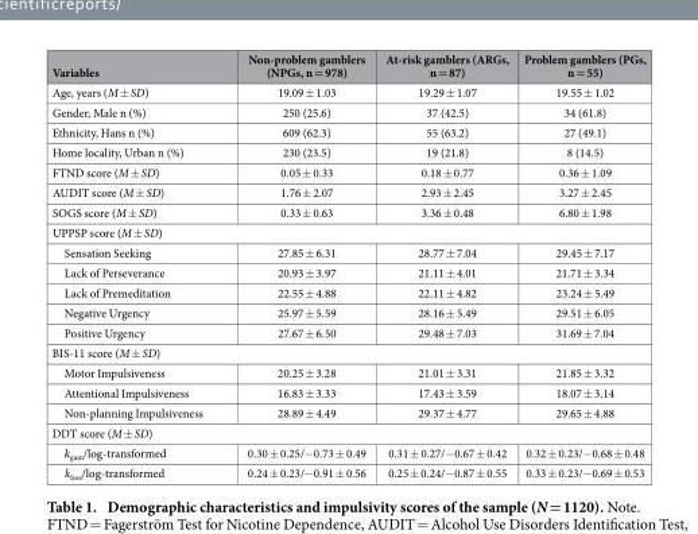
<table><thead><tr><td>Variables</td><td>Non-problem gamblers (NPGs, n = 978)</td><td>At-risk gamblers (ARGs, n = 87)</td><td>Problem gamblers (PGs, n = 55)</td></tr></thead><tbody><tr><td>Age, years (M ± SD)</td><td>19.09 ± 1.03</td><td>19.29 ± 1.07</td><td>19.55 ± 1.02</td></tr><tr><td>Gender, Male n (%)</td><td>250 (25.6)</td><td>37 (42.5)</td><td>34 (61.8)</td></tr><tr><td>Ethnicity, Hans n (%)</td><td>609 (62.3)</td><td>55 (63.2)</td><td>27 (49.1)</td></tr><tr><td>Home locality, Urban n (%)</td><td>230 (23.5)</td><td>19 (21.8)</td><td>8 (14.5)</td></tr><tr><td>FTND score (M ± SD)</td><td>0.05 ± 0.33</td><td>0.18 ± 0.77</td><td>0.36 ± 1.09</td></tr><tr><td>AUDIT score (M ± SD)</td><td>1.76 ± 2.07</td><td>2.93 ± 2.45</td><td>3.27 ± 2.45</td></tr><tr><td>SOGS score (M ± SD)</td><td>0.33 ± 0.63</td><td>3.36 ± 0.48</td><td>6.80 ± 1.98</td></tr><tr><td colspan="4">UPPSP score (M ± SD)</td></tr><tr><td>Sensation Seeking</td><td>27.85 ± 6.31</td><td>28.77 ± 7.04</td><td>29.45 ± 7.17</td></tr><tr><td>Lack of Perseverance</td><td>20.93 ± 3.97</td><td>21.11 ± 4.01</td><td>21.71 ± 3.34</td></tr><tr><td>Lack of Premeditation</td><td>22.55 ± 4.88</td><td>22.11 ± 4.82</td><td>23.24 ± 5.49</td></tr><tr><td>Negative Urgency</td><td>25.97 ± 5.59</td><td>28.16 ± 5.49</td><td>29.51 ± 6.05</td></tr><tr><td>Positive Urgency</td><td>27.67 ± 6.50</td><td>29.48 ± 7.03</td><td>31.69 ± 7.04</td></tr><tr><td colspan="4">BIS-11 score (M ± SD)</td></tr><tr><td>Motor Impulsiveness</td><td>20.25 ± 3.28</td><td>21.01 ± 3.31</td><td>21.85 ± 3.32</td></tr><tr><td>Attentional Impulsiveness</td><td>16.83 ± 3.33</td><td>17.43 ± 3.59</td><td>18.07 ± 3.14</td></tr><tr><td>Non-planning Impulsiveness</td><td>28.89 ± 4.49</td><td>29.37 ± 4.77</td><td>29.65 ± 4.88</td></tr><tr><td colspan="4">DDT score (M ± SD)</td></tr><tr><td>k<sub>gain</sub>/log-transformed</td><td>0.30 ± 0.25/− 0.73 ± 0.49</td><td>0.31 ± 0.27/− 0.67 ± 0.42</td><td>0.32 ± 0.23/− 0.68 ± 0.48</td></tr><tr><td>k<sub>loss</sub>/log-transformed</td><td>0.24 ± 0.23/− 0.91 ± 0.56</td><td>0.25 ± 0.24/− 0.87 ± 0.55</td><td>0.33 ± 0.23/− 0.69 ± 0.53</td></tr></tbody></table>